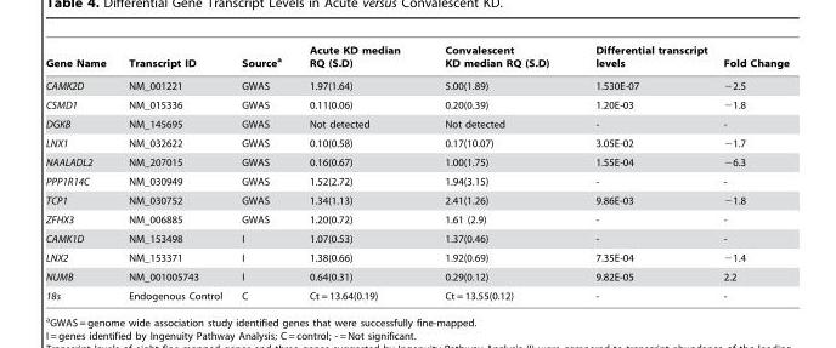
<table><thead><tr><td>Gene Name</td><td>Transcript ID</td><td>Source<sup>a</sup></td><td>Acute KD median RQ (S.D)</td><td>Convalescent KD median RQ (S.D)</td><td>Differential transcript levels</td><td>Fold Change</td></tr></thead><tbody><tr><td>CAMK2D</td><td>NM_001221</td><td>GWAS</td><td>1.97(1.64)</td><td>5.00(1.89)</td><td>1.530E-07</td><td>−2.5</td></tr><tr><td>CSMD1</td><td>NM_015336</td><td>GWAS</td><td>0.11(0.06)</td><td>0.20(0.39)</td><td>1.20E-03</td><td>−1.8</td></tr><tr><td>DGKB</td><td>NM_145695</td><td>GWAS</td><td>Not detected</td><td>Not detected</td><td>-</td><td>-</td></tr><tr><td>LNX1</td><td>NM_032622</td><td>GWAS</td><td>0.10(0.58)</td><td>0.17(10.07)</td><td>3.05E-02</td><td>−1.7</td></tr><tr><td>NAALADL2</td><td>NM_207015</td><td>GWAS</td><td>0.16(0.67)</td><td>1.00(1.75)</td><td>1.55E-04</td><td>−6.3</td></tr><tr><td>PPP1R14C</td><td>NM_030949</td><td>GWAS</td><td>1.52(2.72)</td><td>1.94(3.15)</td><td>-</td><td>-</td></tr><tr><td>TCP1</td><td>NM_030752</td><td>GWAS</td><td>1.34(1.13)</td><td>2.41(1.26)</td><td>9.86E-03</td><td>−1.8</td></tr><tr><td>ZFHX3</td><td>NM_006885</td><td>GWAS</td><td>1.20(0.72)</td><td>1.61 (2.9)</td><td>-</td><td>-</td></tr><tr><td>CAMK1D</td><td>NM_153498</td><td>I</td><td>1.07(0.53)</td><td>1.37(0.46)</td><td>-</td><td>-</td></tr><tr><td>LNX2</td><td>NM_153371</td><td>I</td><td>1.38(0.66)</td><td>1.92(0.69)</td><td>7.35E-04</td><td>−1.4</td></tr><tr><td>NUMB</td><td>NM_001005743</td><td>I</td><td>0.64(0.31)</td><td>0.29(0.12)</td><td>9.82E-05</td><td>2.2</td></tr><tr><td>18s</td><td>Endogenous Control</td><td>C</td><td>Ct = 13.64(0.19)</td><td>Ct = 13.55(0.12)</td><td>-</td><td>-</td></tr></tbody></table>